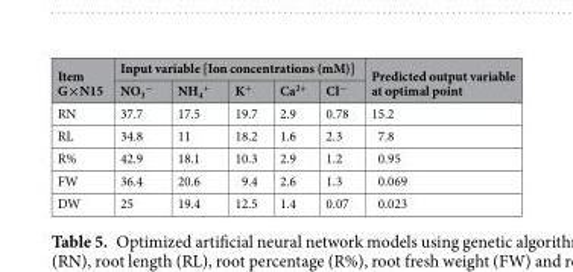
<table><thead><tr><td rowspan="2">Item G×N15</td><td colspan="5">Input variable [Ion concentrations (mM)]</td><td rowspan="2">Predicted output variable at optimal point</td></tr><tr><td>NO<sub>3</sub> <sup>−</sup></td><td>NH<sub>4</sub> <sup>+</sup></td><td>K<sup>+</sup></td><td>Ca<sup>2+</sup></td><td>Cl<sup>−</sup></td></tr></thead><tbody><tr><td>RN</td><td>37.7</td><td>17.5</td><td>19.7</td><td>2.9</td><td>0.78</td><td>15.2</td></tr><tr><td>RL</td><td>34.8</td><td>11</td><td>18.2</td><td>1.6</td><td>2.3</td><td>7.8</td></tr><tr><td>R%</td><td>42.9</td><td>18.1</td><td>10.3</td><td>2.9</td><td>1.2</td><td>0.95</td></tr><tr><td>FW</td><td>36.4</td><td>20.6</td><td>9.4</td><td>2.6</td><td>1.3</td><td>0.069</td></tr><tr><td>DW</td><td>25</td><td>19.4</td><td>12.5</td><td>1.4</td><td>0.07</td><td>0.023</td></tr></tbody></table>